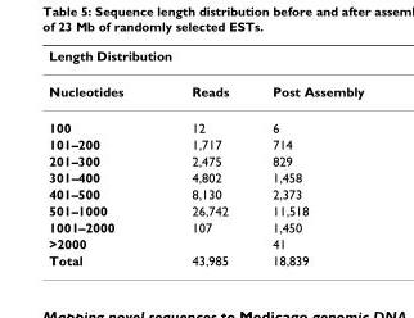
<table><thead><tr><td colspan="3">Length Distribution</td></tr><tr><td>Nucleotides</td><td>Reads</td><td>Post Assembly</td></tr></thead><tbody><tr><td>100</td><td>12</td><td>6</td></tr><tr><td>101–200</td><td>1,717</td><td>714</td></tr><tr><td>201–300</td><td>2,475</td><td>829</td></tr><tr><td>301–400</td><td>4,802</td><td>1,458</td></tr><tr><td>401–500</td><td>8,130</td><td>2,373</td></tr><tr><td>501–1000</td><td>26,742</td><td>11,518</td></tr><tr><td>1001–2000</td><td>107</td><td>1,450</td></tr><tr><td>&gt;2000</td><td></td><td>41</td></tr><tr><td>Total</td><td>43,985</td><td>18,839</td></tr></tbody></table>